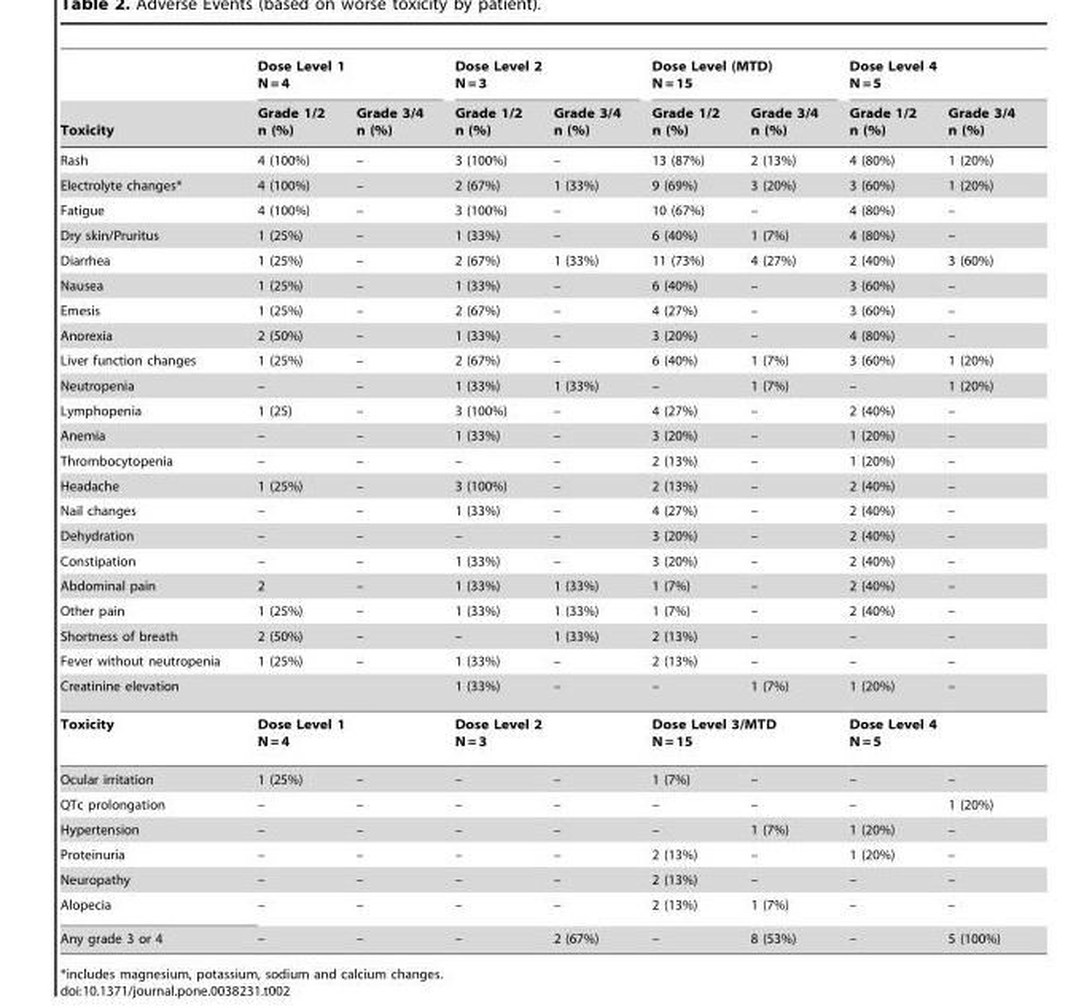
<table><thead><tr><td rowspan="2">Toxicity</td><td colspan="2">Dose Level 1 N = 4</td><td colspan="2">Dose Level 2 N = 3</td><td colspan="2">Dose Level (MTD) N = 15</td><td colspan="2">Dose Level 4 N = 5</td></tr><tr><td>Grade 1/2 n (%)</td><td>Grade 3/4 n (%)</td><td>Grade 1/2 n (%)</td><td>Grade 3/4 n (%)</td><td>Grade 1/2 n (%)</td><td>Grade 3/4 n (%)</td><td>Grade 1/2 n (%)</td><td>Grade 3/4 n (%)</td></tr></thead><tbody><tr><td>Rash</td><td>4 (100%)</td><td>–</td><td>3 (100%)</td><td>–</td><td>13 (87%)</td><td>2 (13%)</td><td>4 (80%)</td><td>1 (20%)</td></tr><tr><td>Electrolyte changes*</td><td>4 (100%)</td><td>–</td><td>2 (67%)</td><td>1 (33%)</td><td>9 (69%)</td><td>3 (20%)</td><td>3 (60%)</td><td>1 (20%)</td></tr><tr><td>Fatigue</td><td>4 (100%)</td><td>–</td><td>3 (100%)</td><td>–</td><td>10 (67%)</td><td>–</td><td>4 (80%)</td><td>–</td></tr><tr><td>Dry skin/Pruritus</td><td>1 (25%)</td><td>–</td><td>1 (33%)</td><td>–</td><td>6 (40%)</td><td>1 (7%)</td><td>4 (80%)</td><td>–</td></tr><tr><td>Diarrhea</td><td>1 (25%)</td><td>–</td><td>2 (67%)</td><td>1 (33%)</td><td>11 (73%)</td><td>4 (27%)</td><td>2 (40%)</td><td>3 (60%)</td></tr><tr><td>Nausea</td><td>1 (25%)</td><td>–</td><td>1 (33%)</td><td>–</td><td>6 (40%)</td><td>–</td><td>3 (60%)</td><td>–</td></tr><tr><td>Emesis</td><td>1 (25%)</td><td>–</td><td>2 (67%)</td><td>–</td><td>4 (27%)</td><td>–</td><td>3 (60%)</td><td>–</td></tr><tr><td>Anorexia</td><td>2 (50%)</td><td>–</td><td>1 (33%)</td><td>–</td><td>3 (20%)</td><td>–</td><td>4 (80%)</td><td>–</td></tr><tr><td>Liver function changes</td><td>1 (25%)</td><td>–</td><td>2 (67%)</td><td>–</td><td>6 (40%)</td><td>1 (7%)</td><td>3 (60%)</td><td>1 (20%)</td></tr><tr><td>Neutropenia</td><td>–</td><td>–</td><td>1 (33%)</td><td>1 (33%)</td><td>–</td><td>1 (7%)</td><td>–</td><td>1 (20%)</td></tr><tr><td>Lymphopenia</td><td>1 (25)</td><td>–</td><td>3 (100%)</td><td>–</td><td>4 (27%)</td><td>–</td><td>2 (40%)</td><td>–</td></tr><tr><td>Anemia</td><td>–</td><td>–</td><td>1 (33%)</td><td>–</td><td>3 (20%)</td><td>–</td><td>1 (20%)</td><td>–</td></tr><tr><td>Thrombocytopenia</td><td>–</td><td>–</td><td>–</td><td>–</td><td>2 (13%)</td><td>–</td><td>1 (20%)</td><td>–</td></tr><tr><td>Headache</td><td>1 (25%)</td><td>–</td><td>3 (100%)</td><td>–</td><td>2 (13%)</td><td>–</td><td>2 (40%)</td><td>–</td></tr><tr><td>Nail changes</td><td>–</td><td>–</td><td>1 (33%)</td><td>–</td><td>4 (27%)</td><td>–</td><td>2 (40%)</td><td>–</td></tr><tr><td>Dehydration</td><td>–</td><td>–</td><td>–</td><td>–</td><td>3 (20%)</td><td>–</td><td>2 (40%)</td><td>–</td></tr><tr><td>Constipation</td><td>–</td><td>–</td><td>1 (33%)</td><td>–</td><td>3 (20%)</td><td>–</td><td>2 (40%)</td><td>–</td></tr><tr><td>Abdominal pain</td><td>2</td><td>–</td><td>1 (33%)</td><td>1 (33%)</td><td>1 (7%)</td><td>–</td><td>2 (40%)</td><td>–</td></tr><tr><td>Other pain</td><td>1 (25%)</td><td>–</td><td>1 (33%)</td><td>1 (33%)</td><td>1 (7%)</td><td>–</td><td>2 (40%)</td><td>–</td></tr><tr><td>Shortness of breath</td><td>2 (50%)</td><td>–</td><td>–</td><td>1 (33%)</td><td>2 (13%)</td><td>–</td><td>–</td><td>–</td></tr><tr><td>Fever without neutropenia</td><td>1 (25%)</td><td>–</td><td>1 (33%)</td><td>–</td><td>2 (13%)</td><td>–</td><td>–</td><td>–</td></tr><tr><td>Creatinine elevation</td><td></td><td></td><td>1 (33%)</td><td>–</td><td>–</td><td>1 (7%)</td><td>1 (20%)</td><td>–</td></tr><tr><td>Toxicity</td><td colspan="2">Dose Level 1 N = 4</td><td colspan="2">Dose Level 2 N = 3</td><td colspan="2">Dose Level 3/MTD N = 15</td><td colspan="2">Dose Level 4 N = 5</td></tr><tr><td>Ocular irritation</td><td>1 (25%)</td><td>–</td><td>–</td><td>–</td><td>1 (7%)</td><td>–</td><td>–</td><td>–</td></tr><tr><td>QTc prolongation</td><td>–</td><td>–</td><td>–</td><td>–</td><td>–</td><td>–</td><td>–</td><td>1 (20%)</td></tr><tr><td>Hypertension</td><td>–</td><td>–</td><td>–</td><td>–</td><td>–</td><td>1 (7%)</td><td>1 (20%)</td><td>–</td></tr><tr><td>Proteinuria</td><td>–</td><td>–</td><td>–</td><td>–</td><td>2 (13%)</td><td>–</td><td>1 (20%)</td><td>–</td></tr><tr><td>Neuropathy</td><td>–</td><td>–</td><td>–</td><td>–</td><td>2 (13%)</td><td>–</td><td>–</td><td>–</td></tr><tr><td>Alopecia</td><td>–</td><td>–</td><td>–</td><td>–</td><td>2 (13%)</td><td>1 (7%)</td><td>–</td><td>–</td></tr><tr><td>Any grade 3 or 4</td><td>–</td><td>–</td><td>–</td><td>2 (67%)</td><td>–</td><td>8 (53%)</td><td>–</td><td>5 (100%)</td></tr></tbody></table>